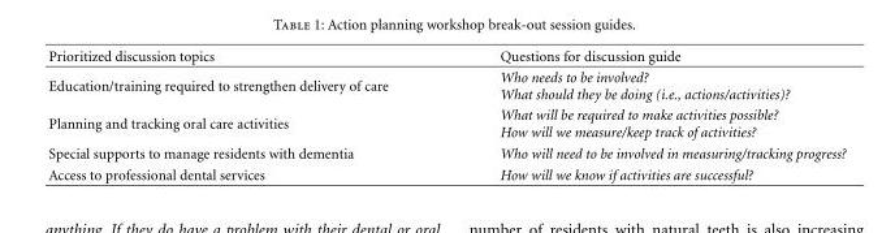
<table><thead><tr><td>Prioritized discussion topics</td><td>Questions for discussion guide</td></tr></thead><tbody><tr><td>Education/training required to strengthen delivery of care</td><td>Who needs to be involved? What should they be doing (i.e., actions/activities)?</td></tr><tr><td>Planning and tracking oral care activities</td><td>What will be required to make activities possible? How will we measure/keep track of activities?</td></tr><tr><td>Special supports to manage residents with dementia</td><td>Who will need to be involved in measuring/tracking progress?</td></tr><tr><td>Access to professional dental services</td><td>How will we know if activities are successful?</td></tr></tbody></table>